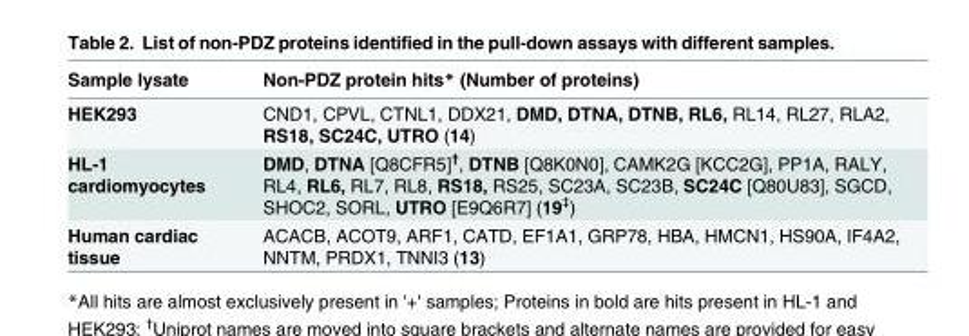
<table><thead><tr><td>Sample lysate</td><td>Non-PDZ protein hits* (Number of proteins)</td></tr></thead><tbody><tr><td>HEK293</td><td>CND1, CPVL, CTNL1, DDX21, DMD, DTNA, DTNB, RL6, RL14, RL27, RLA2, RS18, SC24C, UTRO (14)</td></tr><tr><td>HL-1 cardiomyocytes</td><td>DMD, DTNA [Q8CFR5]<sup>†</sup>, DTNB [Q8K0N0], CAMK2G [KCC2G], PP1A, RALY, RL4, RL6, RL7, RL8, RS18, RS25, SC23A, SC23B, SC24C [Q80U83], SGCD, SHOC2, SORL, UTRO [E9Q6R7] (19<sup>‡</sup>)</td></tr><tr><td>Human cardiac tissue</td><td>ACACB, ACOT9, ARF1, CATD, EF1A1, GRP78, HBA, HMCN1, HS90A, IF4A2, NNTM, PRDX1, TNNI3 (13)</td></tr></tbody></table>